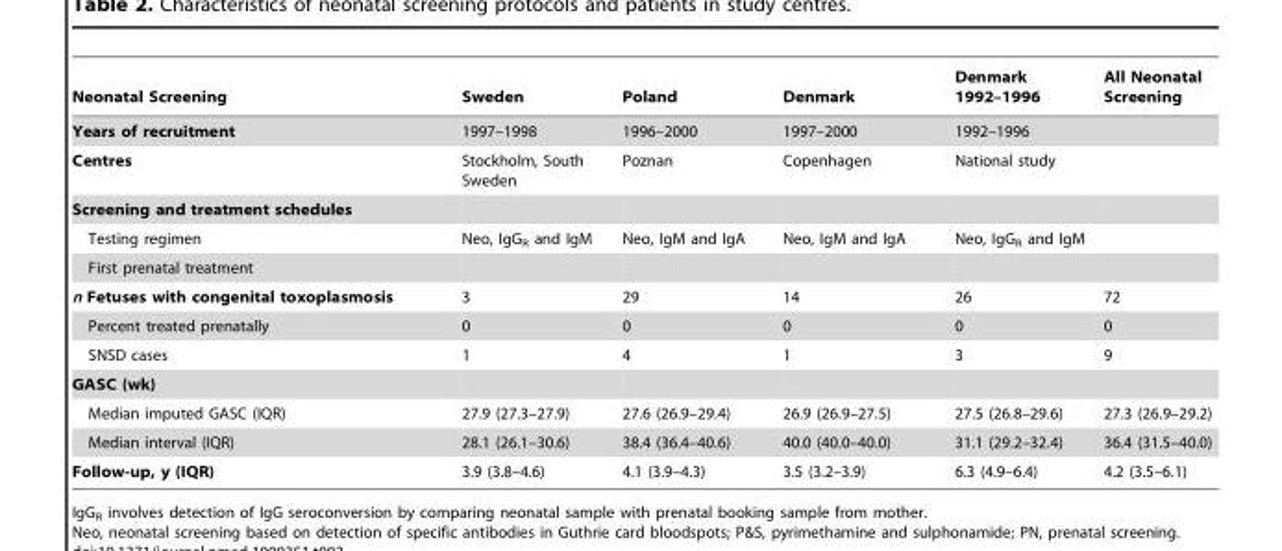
<table><thead><tr><td>Neonatal Screening</td><td>Sweden</td><td>Poland</td><td>Denmark</td><td>Denmark 1992–1996</td><td>All Neonatal Screening</td></tr></thead><tbody><tr><td>Years of recruitment</td><td>1997–1998</td><td>1996–2000</td><td>1997–2000</td><td>1992–1996</td><td></td></tr><tr><td>Centres</td><td>Stockholm, South Sweden</td><td>Poznan</td><td>Copenhagen</td><td>National study</td><td></td></tr><tr><td colspan="6">Screening and treatment schedules</td></tr><tr><td>Testing regimen</td><td>Neo, IgG<sub>R</sub> and IgM</td><td>Neo, IgM and IgA</td><td>Neo, IgM and IgA</td><td>Neo, IgG<sub>R</sub> and IgM</td><td></td></tr><tr><td colspan="6">First prenatal treatment</td></tr><tr><td>n Fetuses with congenital toxoplasmosis</td><td>3</td><td>29</td><td>14</td><td>26</td><td>72</td></tr><tr><td>Percent treated prenatally</td><td>0</td><td>0</td><td>0</td><td>0</td><td>0</td></tr><tr><td>SNSD cases</td><td>1</td><td>4</td><td>1</td><td>3</td><td>9</td></tr><tr><td colspan="6">GASC (wk)</td></tr><tr><td>Median imputed GASC (IQR)</td><td>27.9 (27.3–27.9)</td><td>27.6 (26.9–29.4)</td><td>26.9 (26.9–27.5)</td><td>27.5 (26.8–29.6)</td><td>27.3 (26.9–29.2)</td></tr><tr><td>Median interval (IQR)</td><td>28.1 (26.1–30.6)</td><td>38.4 (36.4–40.6)</td><td>40.0 (40.0–40.0)</td><td>31.1 (29.2–32.4)</td><td>36.4 (31.5–40.0)</td></tr><tr><td>Follow-up, y (IQR)</td><td>3.9 (3.8–4.6)</td><td>4.1 (3.9–4.3)</td><td>3.5 (3.2–3.9)</td><td>6.3 (4.9–6.4)</td><td>4.2 (3.5–6.1)</td></tr></tbody></table>